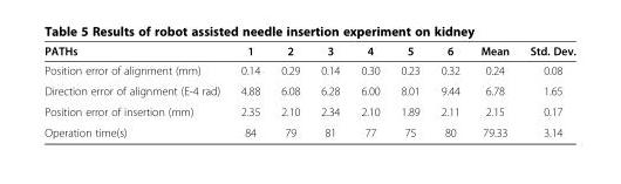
<table><thead><tr><td>PATHs</td><td>1</td><td>2</td><td>3</td><td>4</td><td>5</td><td>6</td><td>Mean</td><td>Std. Dev.</td></tr></thead><tbody><tr><td>Position error of alignment (mm)</td><td>0.14</td><td>0.29</td><td>0.14</td><td>0.30</td><td>0.23</td><td>0.32</td><td>0.24</td><td>0.08</td></tr><tr><td>Direction error of alignment (E-4 rad)</td><td>4.88</td><td>6.08</td><td>6.28</td><td>6.00</td><td>8.01</td><td>9.44</td><td>6.78</td><td>1.65</td></tr><tr><td>Position error of insertion (mm)</td><td>2.35</td><td>2.10</td><td>2.34</td><td>2.10</td><td>1.89</td><td>2.11</td><td>2.15</td><td>0.17</td></tr><tr><td>Operation time(s)</td><td>84</td><td>79</td><td>81</td><td>77</td><td>75</td><td>80</td><td>79.33</td><td>3.14</td></tr></tbody></table>